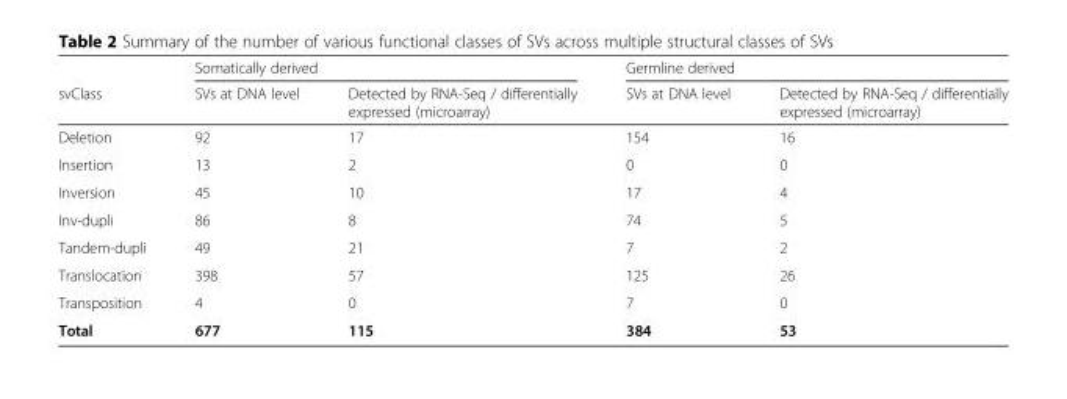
<table><thead><tr><td rowspan="2">svClass</td><td colspan="2">Somatically derived</td><td colspan="2">Germline derived</td></tr><tr><td>SVs at DNA level</td><td>Detected by RNA-Seq / differentially expressed (microarray)</td><td>SVs at DNA level</td><td>Detected by RNA-Seq / differentially expressed (microarray)</td></tr></thead><tbody><tr><td>Deletion</td><td>92</td><td>17</td><td>154</td><td>16</td></tr><tr><td>Insertion</td><td>13</td><td>2</td><td>0</td><td>0</td></tr><tr><td>Inversion</td><td>45</td><td>10</td><td>17</td><td>4</td></tr><tr><td>Inv-dupli</td><td>86</td><td>8</td><td>74</td><td>5</td></tr><tr><td>Tandem-dupli</td><td>49</td><td>21</td><td>7</td><td>2</td></tr><tr><td>Translocation</td><td>398</td><td>57</td><td>125</td><td>26</td></tr><tr><td>Transposition</td><td>4</td><td>0</td><td>7</td><td>0</td></tr><tr><td>Total</td><td>677</td><td>115</td><td>384</td><td>53</td></tr></tbody></table>